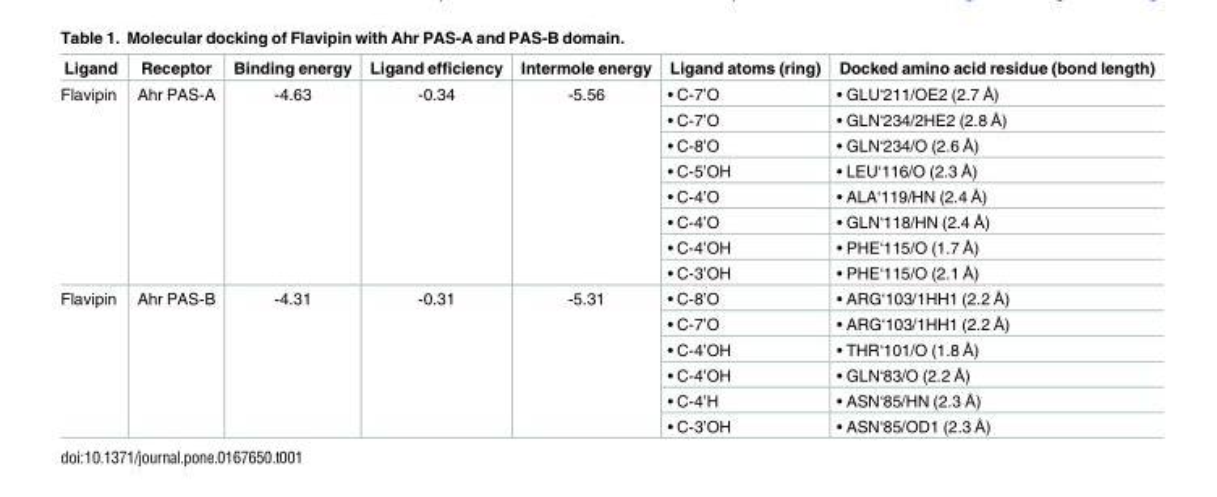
<table><thead><tr><td>Ligand</td><td>Receptor</td><td>Binding energy</td><td>Ligand efficiency</td><td>Intermole energy</td><td>Ligand atoms (ring)</td><td>Docked amino acid residue (bond length)</td></tr></thead><tbody><tr><td rowspan="8">Flavipin</td><td rowspan="8">Ahr PAS-A</td><td rowspan="8">-4.63</td><td rowspan="8">-0.34</td><td rowspan="8">-5.56</td><td>• C-7’O</td><td>• GLU‘211/OE2 (2.7 Å)</td></tr><tr><td>• C-7’O</td><td>• GLN‘234/2HE2 (2.8 Å)</td></tr><tr><td>• C-8’O</td><td>• GLN‘234/O (2.6 Å)</td></tr><tr><td>• C-5’OH</td><td>• LEU‘116/O (2.3 Å)</td></tr><tr><td>• C-4’O</td><td>• ALA‘119/HN (2.4 Å)</td></tr><tr><td>• C-4’O</td><td>• GLN‘118/HN (2.4 Å)</td></tr><tr><td>• C-4’OH</td><td>• PHE‘115/O (1.7 Å)</td></tr><tr><td>• C-3’OH</td><td>• PHE‘115/O (2.1 Å)</td></tr><tr><td rowspan="6">Flavipin</td><td rowspan="6">Ahr PAS-B</td><td rowspan="6">-4.31</td><td rowspan="6">-0.31</td><td rowspan="6">-5.31</td><td>• C-8’O</td><td>• ARG‘103/1HH1 (2.2 Å)</td></tr><tr><td>• C-7’O</td><td>• ARG‘103/1HH1 (2.2 Å)</td></tr><tr><td>• C-4’OH</td><td>• THR‘101/O (1.8 Å)</td></tr><tr><td>• C-4’OH</td><td>• GLN‘83/O (2.2 Å)</td></tr><tr><td>• C-4’H</td><td>• ASN‘85/HN (2.3 Å)</td></tr><tr><td>• C-3’OH</td><td>• ASN‘85/OD1 (2.3 Å)</td></tr></tbody></table>